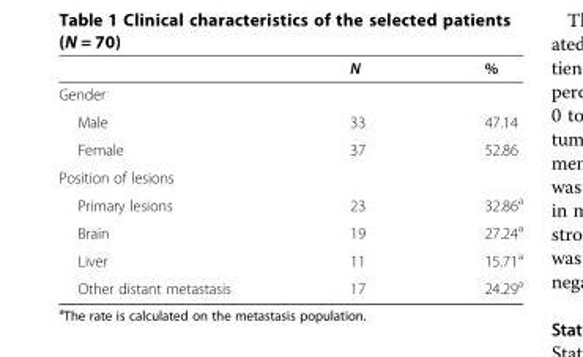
<table><thead><tr><td></td><td>N</td><td>%</td></tr></thead><tbody><tr><td colspan="3">Gender</td></tr><tr><td>Male</td><td>33</td><td>47.14</td></tr><tr><td>Female</td><td>37</td><td>52.86</td></tr><tr><td colspan="3">Position of lesions</td></tr><tr><td>Primary lesions</td><td>23</td><td>32.86<sup>a</sup></td></tr><tr><td>Brain</td><td>19</td><td>27.24<sup>a</sup></td></tr><tr><td>Liver</td><td>11</td><td>15.71<sup>a</sup></td></tr><tr><td>Other distant metastasis</td><td>17</td><td>24.29<sup>a</sup></td></tr></tbody></table>